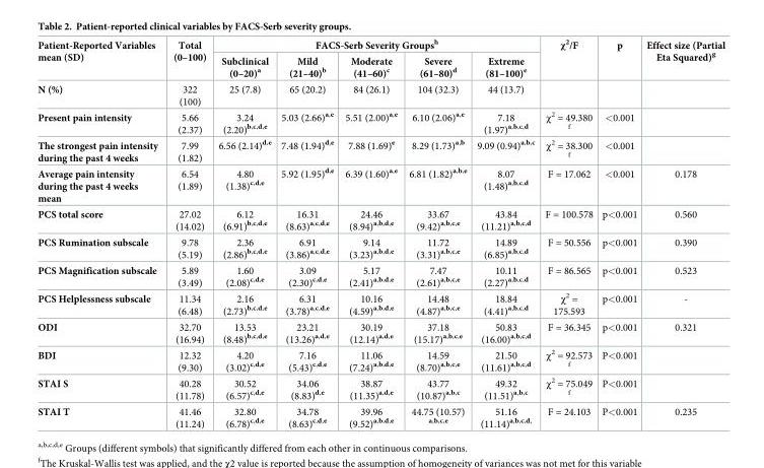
<table><thead><tr><td rowspan="2">Patient-Reported Variables mean (SD)</td><td rowspan="2">Total (0–100)</td><td colspan="5">FACS-Serb Severity Groups<sup>h</sup></td><td rowspan="2">χ<sup>2</sup>/F</td><td rowspan="2">p</td><td rowspan="2">Effect size (Partial Eta Squared)<sup>g</sup></td></tr><tr><td>Subclinical (0–20)<sup>a</sup></td><td>Mild (21–40)<sup>b</sup></td><td>Moderate (41–60)<sup>c</sup></td><td>Severe (61–80)<sup>d</sup></td><td>Extreme (81–100)<sup>e</sup></td></tr></thead><tbody><tr><td>N (%)</td><td>322 (100)</td><td>25 (7.8)</td><td>65 (20.2)</td><td>84 (26.1)</td><td>104 (32.3)</td><td>44 (13.7)</td><td></td><td></td><td></td></tr><tr><td>Present pain intensity</td><td>5.66 (2.37)</td><td>3.24 (2.20)<sup>b,c,d,e</sup></td><td>5.03 (2.66)<sup>a,e</sup></td><td>5.51 (2.00)<sup>a,e</sup></td><td>6.10 (2.06)<sup>a,e</sup></td><td>7.18 (1.97)<sup>a,b,c,d</sup></td><td>χ<sup>2</sup> = 49.380 <sup>f</sup></td><td>&lt;0.001</td><td></td></tr><tr><td>The strongest pain intensity during the past 4 weeks</td><td>7.99 (1.82)</td><td>6.56 (2.14)<sup>d,e</sup></td><td>7.48 (1.94)<sup>d,e</sup></td><td>7.88 (1.69)<sup>e</sup></td><td>8.29 (1.73)<sup>a,b</sup></td><td>9.09 (0.94)<sup>a,b,c</sup></td><td>χ<sup>2</sup> = 38.300 <sup>f</sup></td><td>&lt;0.001</td><td></td></tr><tr><td>Average pain intensity during the past 4 weeks mean</td><td>6.54 (1.89)</td><td>4.80 (1.38)<sup>c,d,e</sup></td><td>5.92 (1.95)<sup>d,e</sup></td><td>6.39 (1.60)<sup>a,e</sup></td><td>6.81 (1.82)<sup>a,b,e</sup></td><td>8.07 (1.48)<sup>a,b,c,d</sup></td><td>F = 17.062</td><td>&lt;0.001</td><td>0.178</td></tr><tr><td>PCS total score</td><td>27.02 (14.02)</td><td>6.12 (6.91)<sup>b,c,d,e</sup></td><td>16.31 (8.63)<sup>a,c,d,e</sup></td><td>24.46 (8.94)<sup>a,b,d,e</sup></td><td>33.67 (9.42)<sup>a,b,c,e</sup></td><td>43.84 (11.21)<sup>a,b,c,d</sup></td><td>F = 100.578</td><td>p&lt;0.001</td><td>0.560</td></tr><tr><td>PCS Rumination subscale</td><td>9.78 (5.19)</td><td>2.36 (2.86)<sup>b,c,d,e</sup></td><td>6.91 (3.86)<sup>a,c,d,e</sup></td><td>9.14 (3.23)<sup>a,b,d,e</sup></td><td>11.72 (3.31)<sup>a,b,c,e</sup></td><td>14.89 (6.85)<sup>a,b,c,d</sup></td><td>F = 50.556</td><td>p&lt;0.001</td><td>0.390</td></tr><tr><td>PCS Magnification subscale</td><td>5.89 (3.49)</td><td>1.60 (2.08)<sup>c,d,e</sup></td><td>3.09 (2.30)<sup>c,d,e</sup></td><td>5.17 (2.41)<sup>a,b,d,e</sup></td><td>7.47 (2.61)<sup>a,b,c,e</sup></td><td>10.11 (2.27)<sup>a,b,c,d</sup></td><td>F = 86.565</td><td>p&lt;0.001</td><td>0.523</td></tr><tr><td>PCS Helplessness subscale</td><td>11.34 (6.48)</td><td>2.16 (2.73)<sup>b,c,d,e</sup></td><td>6.31 (3.78)<sup>a,c,d,e</sup></td><td>10.16 (4.59)<sup>a,b,d,e</sup></td><td>14.48 (4.87)<sup>a,b,c,e</sup></td><td>18.84 (4.41)<sup>a,b,c,d</sup></td><td>χ<sup>2</sup> = 175.593</td><td>p&lt;0.001</td><td>-</td></tr><tr><td>ODI</td><td>32.70 (16.94)</td><td>13.53 (8.48)<sup>b,c,d,e</sup></td><td>23.21 (13.26)<sup>a,d,e</sup></td><td>30.19 (12.14)<sup>a,d,e</sup></td><td>37.18 (15.17)<sup>a,b,c,e</sup></td><td>50.83 (16.00)<sup>a,b,c,d</sup></td><td>F = 36.345</td><td>p&lt;0.001</td><td>0.321</td></tr><tr><td>BDI</td><td>12.32 (9.30)</td><td>4.20 (3.02)<sup>c,d,e</sup></td><td>7.16 (5.43)<sup>c,d,e</sup></td><td>11.06 (7.24)<sup>a,b,d,e</sup></td><td>14.59 (8.70)<sup>a,b,c,e</sup></td><td>21.50 (11.61)<sup>a,b,c,d</sup></td><td>χ<sup>2</sup> = 92.573 <sup>f</sup></td><td>P&lt;0.001</td><td></td></tr><tr><td>STAI S</td><td>40.28 (11.78)</td><td>30.52 (6.57)<sup>c,d,e</sup></td><td>34.06 (8.83)<sup>d,e</sup></td><td>38.87 (11.35)<sup>a,d,e</sup></td><td>43.77 (10.87)<sup>a,b,c</sup></td><td>49.32 (11.51)<sup>a,b,c</sup></td><td>χ<sup>2</sup> = 75.049 <sup>f</sup></td><td>P&lt;0.001</td><td></td></tr><tr><td>STAI T</td><td>41.46 (11.24)</td><td>32.80 (6.78)<sup>c,d,e</sup></td><td>34.78 (8.63)<sup>c,d,e</sup></td><td>39.96 (9.52)<sup>a,b,d,e</sup></td><td>44.75 (10.57) <sup>a,b,c,e</sup></td><td>51.16 (11.14)<sup>a,b,c,d,</sup></td><td>F = 24.103</td><td>P&lt;0.001</td><td>0.235</td></tr></tbody></table>